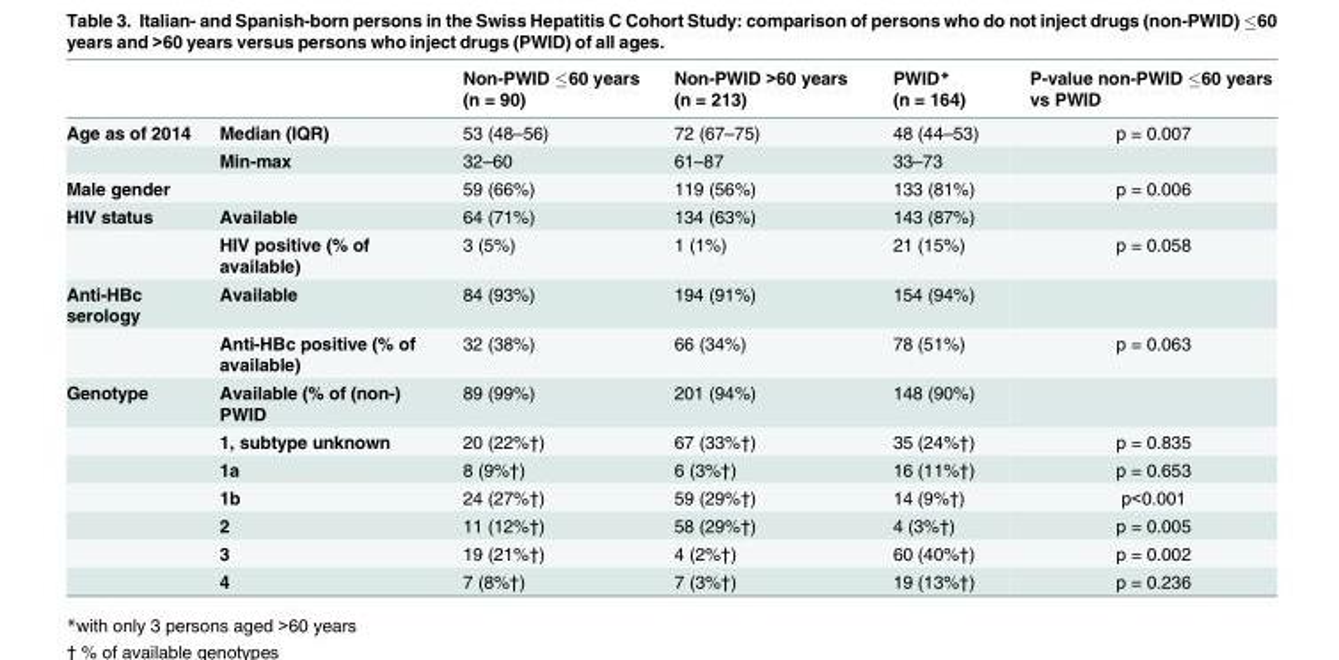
<table><thead><tr><td></td><td></td><td>Non-PWID ≤60 years (n = 90)</td><td>Non-PWID &gt;60 years (n = 213)</td><td>PWID* (n = 164)</td><td>P-value non-PWID ≤60 years vs PWID</td></tr></thead><tbody><tr><td rowspan="2">Age as of 2014</td><td>Median (IQR)</td><td>53 (48–56)</td><td>72 (67–75)</td><td>48 (44–53)</td><td>p = 0.007</td></tr><tr><td>Min-max</td><td>32–60</td><td>61–87</td><td>33–73</td><td></td></tr><tr><td>Male gender</td><td></td><td>59 (66%)</td><td>119 (56%)</td><td>133 (81%)</td><td>p = 0.006</td></tr><tr><td rowspan="2">HIV status</td><td>Available</td><td>64 (71%)</td><td>134 (63%)</td><td>143 (87%)</td><td></td></tr><tr><td>HIV positive (% of available)</td><td>3 (5%)</td><td>1 (1%)</td><td>21 (15%)</td><td>p = 0.058</td></tr><tr><td rowspan="2">Anti-HBc serology</td><td>Available</td><td>84 (93%)</td><td>194 (91%)</td><td>154 (94%)</td><td></td></tr><tr><td>Anti-HBc positive (% of available)</td><td>32 (38%)</td><td>66 (34%)</td><td>78 (51%)</td><td>p = 0.063</td></tr><tr><td rowspan="7">Genotype</td><td>Available (% of (non-) PWID</td><td>89 (99%)</td><td>201 (94%)</td><td>148 (90%)</td><td></td></tr><tr><td>1, subtype unknown</td><td>20 (22%†)</td><td>67 (33%†)</td><td>35 (24%†)</td><td>p = 0.835</td></tr><tr><td>1a</td><td>8 (9%†)</td><td>6 (3%†)</td><td>16 (11%†)</td><td>p = 0.653</td></tr><tr><td>1b</td><td>24 (27%†)</td><td>59 (29%†)</td><td>14 (9%†)</td><td>p&lt;0.001</td></tr><tr><td>2</td><td>11 (12%†)</td><td>58 (29%†)</td><td>4 (3%†)</td><td>p = 0.005</td></tr><tr><td>3</td><td>19 (21%†)</td><td>4 (2%†)</td><td>60 (40%†)</td><td>p = 0.002</td></tr><tr><td>4</td><td>7 (8%†)</td><td>7 (3%†)</td><td>19 (13%†)</td><td>p = 0.236</td></tr></tbody></table>